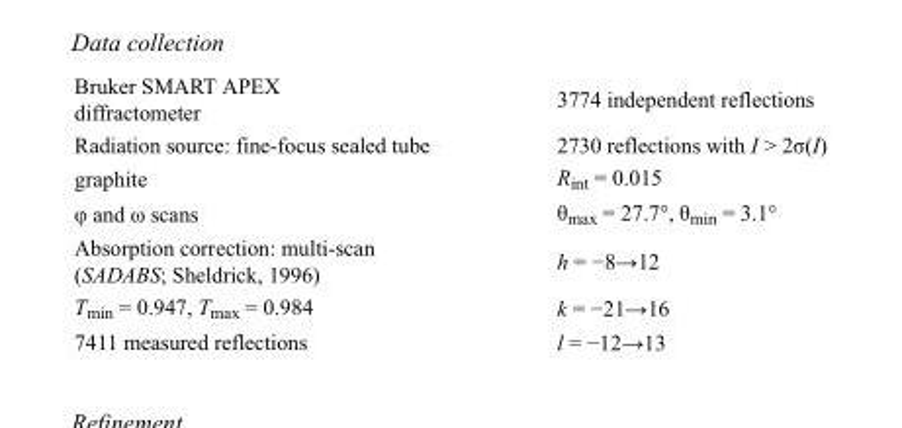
<table><tbody><tr><td>Bruker SMART APEX diffractometer</td><td>3774 independent reflections</td></tr><tr><td>Radiation source: fine-focus sealed tube</td><td>2730 reflections with I &gt; 2σ(I)</td></tr><tr><td>graphite</td><td>R<sub>int</sub> = 0.015</td></tr><tr><td>φ and ω scans</td><td>θ<sub>max</sub> = 27.7°, θ<sub>min</sub> = 3.1°</td></tr><tr><td>Absorption correction: multi-scan (SADABS; Sheldrick, 1996)</td><td>h = −8→12</td></tr><tr><td>T<sub>min</sub> = 0.947, T<sub>max</sub> = 0.984</td><td>k = −21→16</td></tr><tr><td>7411 measured reflections</td><td>l = −12→13</td></tr></tbody></table>